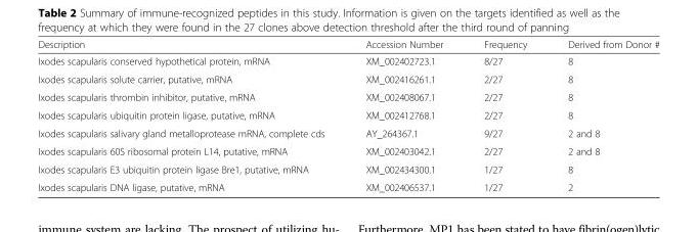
<table><thead><tr><td>Description</td><td>Accession Number</td><td>Frequency</td><td>Derived from Donor #</td></tr></thead><tbody><tr><td>Ixodes scapularis conserved hypothetical protein, mRNA</td><td>XM_002402723.1</td><td>8/27</td><td>8</td></tr><tr><td>Ixodes scapularis solute carrier, putative, mRNA</td><td>XM_002416261.1</td><td>2/27</td><td>8</td></tr><tr><td>Ixodes scapularis thrombin inhibitor, putative, mRNA</td><td>XM_002408067.1</td><td>2/27</td><td>8</td></tr><tr><td>Ixodes scapularis ubiquitin protein ligase, putative, mRNA</td><td>XM_002412768.1</td><td>2/27</td><td>8</td></tr><tr><td>Ixodes scapularis salivary gland metalloprotease mRNA, complete cds</td><td>AY_264367.1</td><td>9/27</td><td>2 and 8</td></tr><tr><td>Ixodes scapularis 60S ribosomal protein L14, putative, mRNA</td><td>XM_002403042.1</td><td>2/27</td><td>2 and 8</td></tr><tr><td>Ixodes scapularis E3 ubiquitin protein ligase Bre1, putative, mRNA</td><td>XM_002434300.1</td><td>1/27</td><td>8</td></tr><tr><td>Ixodes scapularis DNA ligase, putative, mRNA</td><td>XM_002406537.1</td><td>1/27</td><td>2</td></tr></tbody></table>